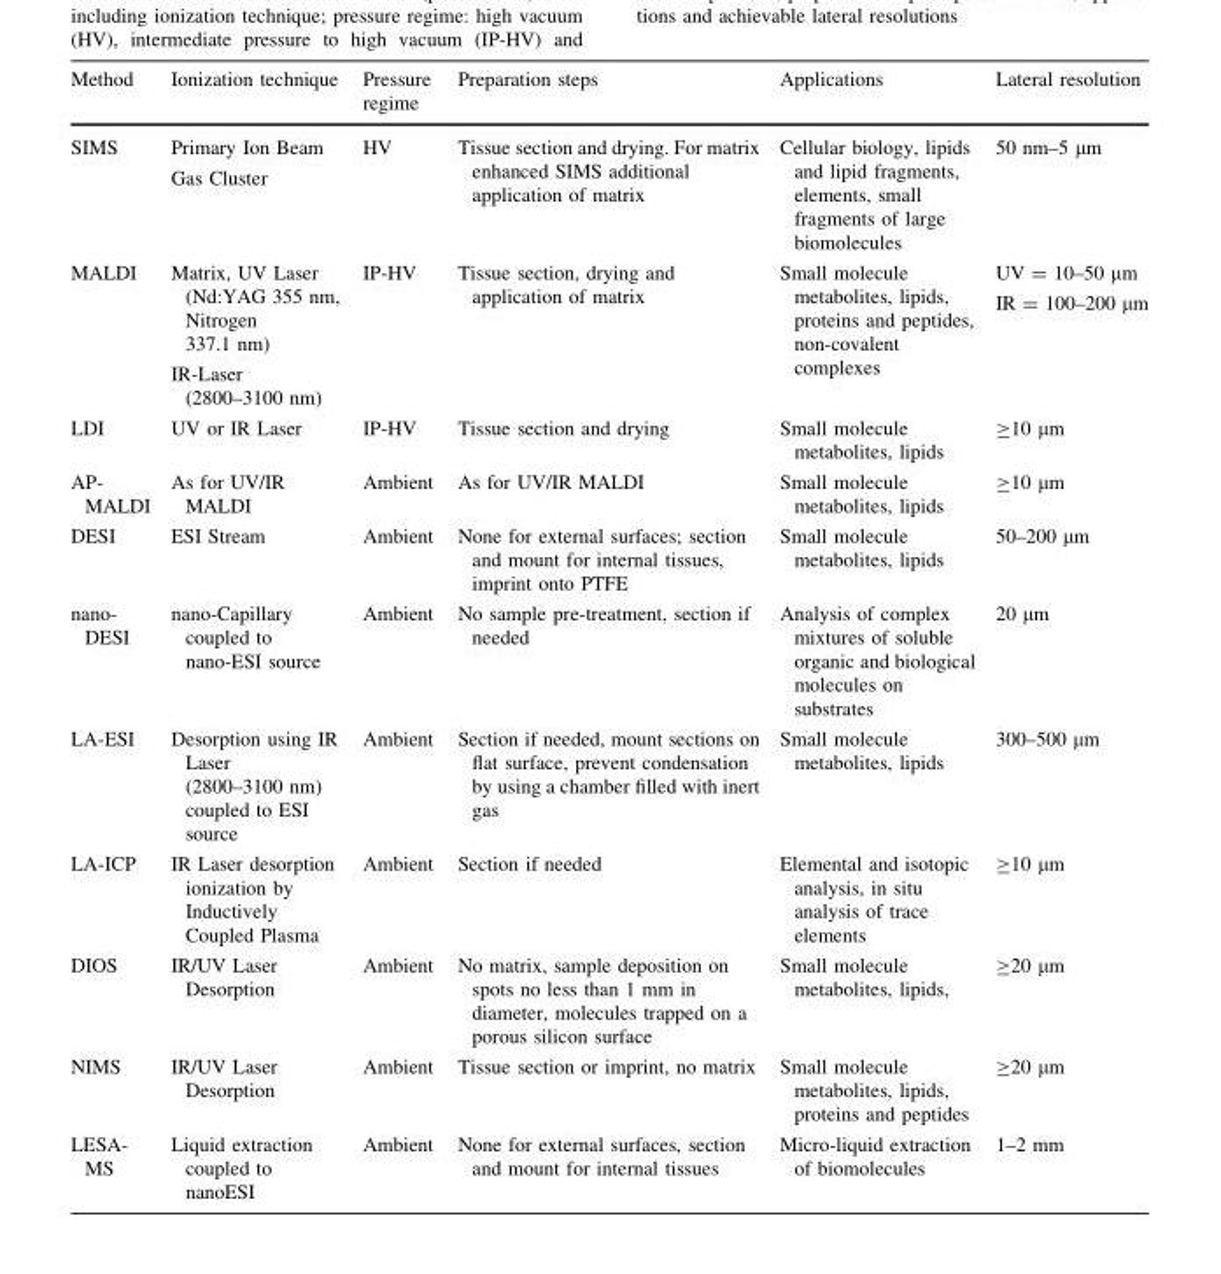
<table><thead><tr><td>Method</td><td>Ionization technique</td><td>Pressure regime</td><td>Preparation steps</td><td>Applications</td><td>Lateral resolution</td></tr></thead><tbody><tr><td>SIMS</td><td>Primary Ion Beam Gas Cluster</td><td>HV</td><td>Tissue section and drying. For matrix enhanced SIMS additional application of matrix</td><td>Cellular biology, lipids and lipid fragments, elements, small fragments of large biomolecules</td><td>50 nm–5 µm</td></tr><tr><td>MALDI</td><td>Matrix, UV Laser (Nd:YAG 355 nm, Nitrogen 337.1 nm) IR-Laser (2800–3100 nm)</td><td>IP-HV</td><td>Tissue section, drying and application of matrix</td><td>Small molecule metabolites, lipids, proteins and peptides, non-covalent complexes</td><td>UV = 10–50 µm IR = 100–200 µm</td></tr><tr><td>LDI</td><td>UV or IR Laser</td><td>IP-HV</td><td>Tissue section and drying</td><td>Small molecule metabolites, lipids</td><td>≥10 µm</td></tr><tr><td>AP- MALDI</td><td>As for UV/IR MALDI</td><td>Ambient</td><td>As for UV/IR MALDI</td><td>Small molecule metabolites, lipids</td><td>≥10 µm</td></tr><tr><td>DESI</td><td>ESI Stream</td><td>Ambient</td><td>None for external surfaces; section and mount for internal tissues, imprint onto PTFE</td><td>Small molecule metabolites, lipids</td><td>50–200 µm</td></tr><tr><td>nano- DESI</td><td>nano-Capillary coupled to nano-ESI source</td><td>Ambient</td><td>No sample pre-treatment, section if needed</td><td>Analysis of complex mixtures of soluble organic and biological molecules on substrates</td><td>20 µm</td></tr><tr><td>LA-ESI</td><td>Desorption using IR Laser (2800–3100 nm) coupled to ESI source</td><td>Ambient</td><td>Section if needed, mount sections on flat surface, prevent condensation by using a chamber filled with inert gas</td><td>Small molecule metabolites, lipids</td><td>300–500 µm</td></tr><tr><td>LA-ICP</td><td>IR Laser desorption ionization by Inductively Coupled Plasma</td><td>Ambient</td><td>Section if needed</td><td>Elemental and isotopic analysis, in situ analysis of trace elements</td><td>≥10 µm</td></tr><tr><td>DIOS</td><td>IR/UV Laser Desorption</td><td>Ambient</td><td>No matrix, sample deposition on spots no less than 1 mm in diameter, molecules trapped on a porous silicon surface</td><td>Small molecule metabolites, lipids,</td><td>≥20 µm</td></tr><tr><td>NIMS</td><td>IR/UV Laser Desorption</td><td>Ambient</td><td>Tissue section or imprint, no matrix</td><td>Small molecule metabolites, lipids, proteins and peptides</td><td>≥20 µm</td></tr><tr><td>LESA- MS</td><td>Liquid extraction coupled to nanoESI</td><td>Ambient</td><td>None for external surfaces, section and mount for internal tissues</td><td>Micro-liquid extraction of biomolecules</td><td>1–2 mm</td></tr></tbody></table>